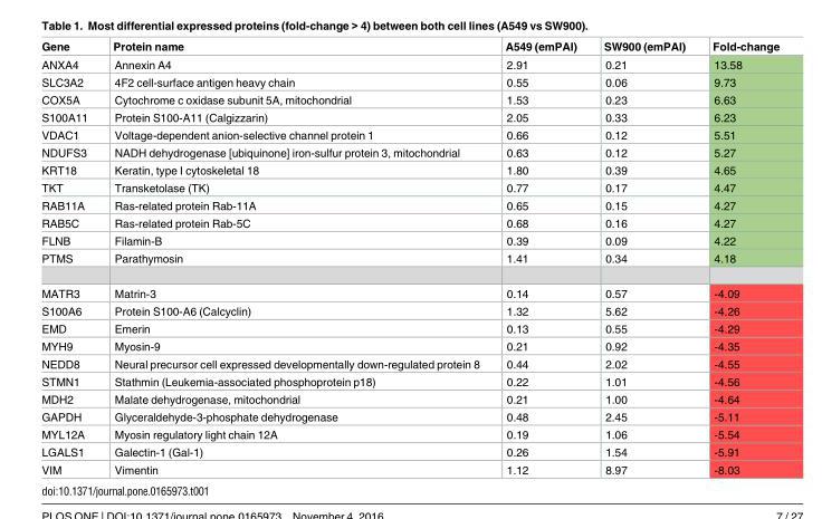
<table><thead><tr><td>Gene</td><td>Protein name</td><td>A549 (emPAI)</td><td>SW900 (emPAI)</td><td>Fold-change</td></tr></thead><tbody><tr><td>ANXA4</td><td>Annexin A4</td><td>2.91</td><td>0.21</td><td>13.58</td></tr><tr><td>SLC3A2</td><td>4F2 cell-surface antigen heavy chain</td><td>0.55</td><td>0.06</td><td>9.73</td></tr><tr><td>COX5A</td><td>Cytochrome c oxidase subunit 5A, mitochondrial</td><td>1.53</td><td>0.23</td><td>6.63</td></tr><tr><td>S100A11</td><td>Protein S100-A11 (Calgizzarin)</td><td>2.05</td><td>0.33</td><td>6.23</td></tr><tr><td>VDAC1</td><td>Voltage-dependent anion-selective channel protein 1</td><td>0.66</td><td>0.12</td><td>5.51</td></tr><tr><td>NDUFS3</td><td>NADH dehydrogenase [ubiquinone] iron-sulfur protein 3, mitochondrial</td><td>0.63</td><td>0.12</td><td>5.27</td></tr><tr><td>KRT18</td><td>Keratin, type I cytoskeletal 18</td><td>1.80</td><td>0.39</td><td>4.65</td></tr><tr><td>TKT</td><td>Transketolase (TK)</td><td>0.77</td><td>0.17</td><td>4.47</td></tr><tr><td>RAB11A</td><td>Ras-related protein Rab-11A</td><td>0.65</td><td>0.15</td><td>4.27</td></tr><tr><td>RAB5C</td><td>Ras-related protein Rab-5C</td><td>0.68</td><td>0.16</td><td>4.27</td></tr><tr><td>FLNB</td><td>Filamin-B</td><td>0.39</td><td>0.09</td><td>4.22</td></tr><tr><td>PTMS</td><td>Parathymosin</td><td>1.41</td><td>0.34</td><td>4.18</td></tr><tr><td>MATR3</td><td>Matrin-3</td><td>0.14</td><td>0.57</td><td>-4.09</td></tr><tr><td>S100A6</td><td>Protein S100-A6 (Calcyclin)</td><td>1.32</td><td>5.62</td><td>-4.26</td></tr><tr><td>EMD</td><td>Emerin</td><td>0.13</td><td>0.55</td><td>-4.29</td></tr><tr><td>MYH9</td><td>Myosin-9</td><td>0.21</td><td>0.92</td><td>-4.35</td></tr><tr><td>NEDD8</td><td>Neural precursor cell expressed developmentally down-regulated protein 8</td><td>0.44</td><td>2.02</td><td>-4.55</td></tr><tr><td>STMN1</td><td>Stathmin (Leukemia-associated phosphoprotein p18)</td><td>0.22</td><td>1.01</td><td>-4.56</td></tr><tr><td>MDH2</td><td>Malate dehydrogenase, mitochondrial</td><td>0.21</td><td>1.00</td><td>-4.64</td></tr><tr><td>GAPDH</td><td>Glyceraldehyde-3-phosphate dehydrogenase</td><td>0.48</td><td>2.45</td><td>-5.11</td></tr><tr><td>MYL12A</td><td>Myosin regulatory light chain 12A</td><td>0.19</td><td>1.06</td><td>-5.54</td></tr><tr><td>LGALS1</td><td>Galectin-1 (Gal-1)</td><td>0.26</td><td>1.54</td><td>-5.91</td></tr><tr><td>VIM</td><td>Vimentin</td><td>1.12</td><td>8.97</td><td>-8.03</td></tr></tbody></table>